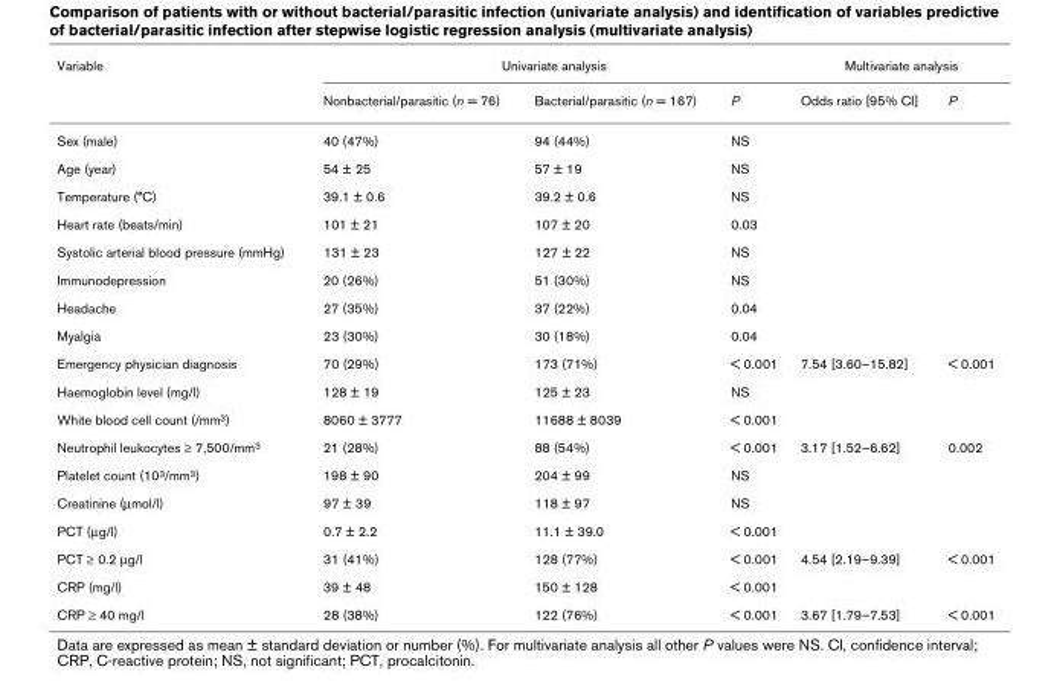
<table><thead><tr><td rowspan="2">Variable</td><td colspan="3">Univariate analysis</td><td colspan="2">Multivariate analysis</td></tr><tr><td>Nonbacterial/parasitic (n = 76)</td><td>Bacterial/parasitic (n = 167)</td><td>P</td><td>Odds ratio [95% CI]</td><td>P</td></tr></thead><tbody><tr><td>Sex (male)</td><td>40 (47%)</td><td>94 (44%)</td><td>NS</td><td></td><td></td></tr><tr><td>Age (year)</td><td>54 ± 25</td><td>57 ± 19</td><td>NS</td><td></td><td></td></tr><tr><td>Temperature (°C)</td><td>39.1 ± 0.6</td><td>39.2 ± 0.6</td><td>NS</td><td></td><td></td></tr><tr><td>Heart rate (beats/min)</td><td>101 ± 21</td><td>107 ± 20</td><td>0.03</td><td></td><td></td></tr><tr><td>Systolic arterial blood pressure (mmHg)</td><td>131 ± 23</td><td>127 ± 22</td><td>NS</td><td></td><td></td></tr><tr><td>Immunodepression</td><td>20 (26%)</td><td>51 (30%)</td><td>NS</td><td></td><td></td></tr><tr><td>Headache</td><td>27 (35%)</td><td>37 (22%)</td><td>0.04</td><td></td><td></td></tr><tr><td>Myalgia</td><td>23 (30%)</td><td>30 (18%)</td><td>0.04</td><td></td><td></td></tr><tr><td>Emergency physician diagnosis</td><td>70 (29%)</td><td>173 (71%)</td><td>&lt; 0.001</td><td>7.54 [3.60–15.82]</td><td>&lt; 0.001</td></tr><tr><td>Haemoglobin level (mg/l)</td><td>128 ± 19</td><td>125 ± 23</td><td>NS</td><td></td><td></td></tr><tr><td>White blood cell count (/mm<sup>3</sup>)</td><td>8060 ± 3777</td><td>11688 ± 8039</td><td>&lt; 0.001</td><td></td><td></td></tr><tr><td>Neutrophil leukocytes ≥ 7,500/mm<sup>3</sup></td><td>21 (28%)</td><td>88 (54%)</td><td>&lt; 0.001</td><td>3.17 [1.52–6.62]</td><td>0.002</td></tr><tr><td>Platelet count (10<sup>3</sup>/mm<sup>3</sup>)</td><td>198 ± 90</td><td>204 ± 99</td><td>NS</td><td></td><td></td></tr><tr><td>Creatinine (μmol/l)</td><td>97 ± 39</td><td>118 ± 97</td><td>NS</td><td></td><td></td></tr><tr><td>PCT (μg/l)</td><td>0.7 ± 2.2</td><td>11.1 ± 39.0</td><td>&lt; 0.001</td><td></td><td></td></tr><tr><td>PCT ≥ 0.2 μg/l</td><td>31 (41%)</td><td>128 (77%)</td><td>&lt; 0.001</td><td>4.54 [2.19–9.39]</td><td>&lt; 0.001</td></tr><tr><td>CRP (mg/l)</td><td>39 ± 48</td><td>150 ± 128</td><td>&lt; 0.001</td><td></td><td></td></tr><tr><td>CRP ≥ 40 mg/l</td><td>28 (38%)</td><td>122 (76%)</td><td>&lt; 0.001</td><td>3.67 [1.79–7.53]</td><td>&lt; 0.001</td></tr></tbody></table>